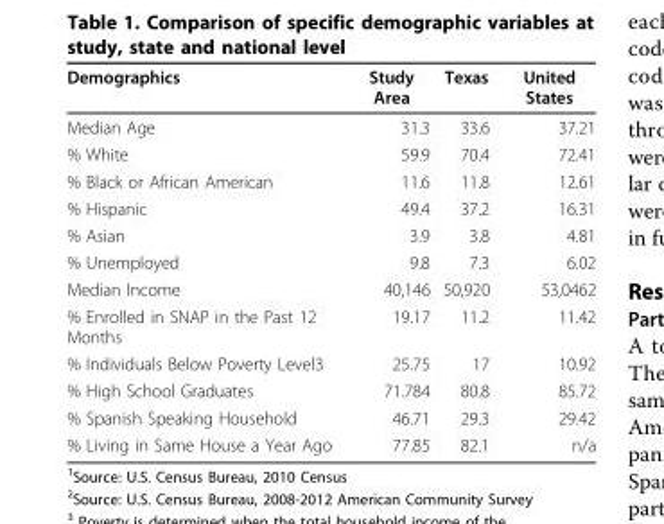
<table><tbody><tr><td>Demographics</td><td>Study Area</td><td>Texas</td><td>United States</td></tr><tr><td>Median Age</td><td>31.3</td><td>33.6</td><td>37.21</td></tr><tr><td>% White</td><td>59.9</td><td>70.4</td><td>72.41</td></tr><tr><td>% Black or African American</td><td>11.6</td><td>11.8</td><td>12.61</td></tr><tr><td>% Hispanic</td><td>49.4</td><td>37.2</td><td>16.31</td></tr><tr><td>% Asian</td><td>3.9</td><td>3.8</td><td>4.81</td></tr><tr><td>% Unemployed</td><td>9.8</td><td>7.3</td><td>6.02</td></tr><tr><td>Median Income</td><td>40,146</td><td>50,920</td><td>53,0462</td></tr><tr><td>% Enrolled in SNAP in the Past 12 Months</td><td>19.17</td><td>11.2</td><td>11.42</td></tr><tr><td>% Individuals Below Poverty Level3</td><td>25.75</td><td>17</td><td>10.92</td></tr><tr><td>% High School Graduates</td><td>71.784</td><td>80.8</td><td>85.72</td></tr><tr><td>% Spanish Speaking Household</td><td>46.71</td><td>29.3</td><td>29.42</td></tr><tr><td>% Living in Same House a Year Ago</td><td>77.85</td><td>82.1</td><td>n/a</td></tr></tbody></table>